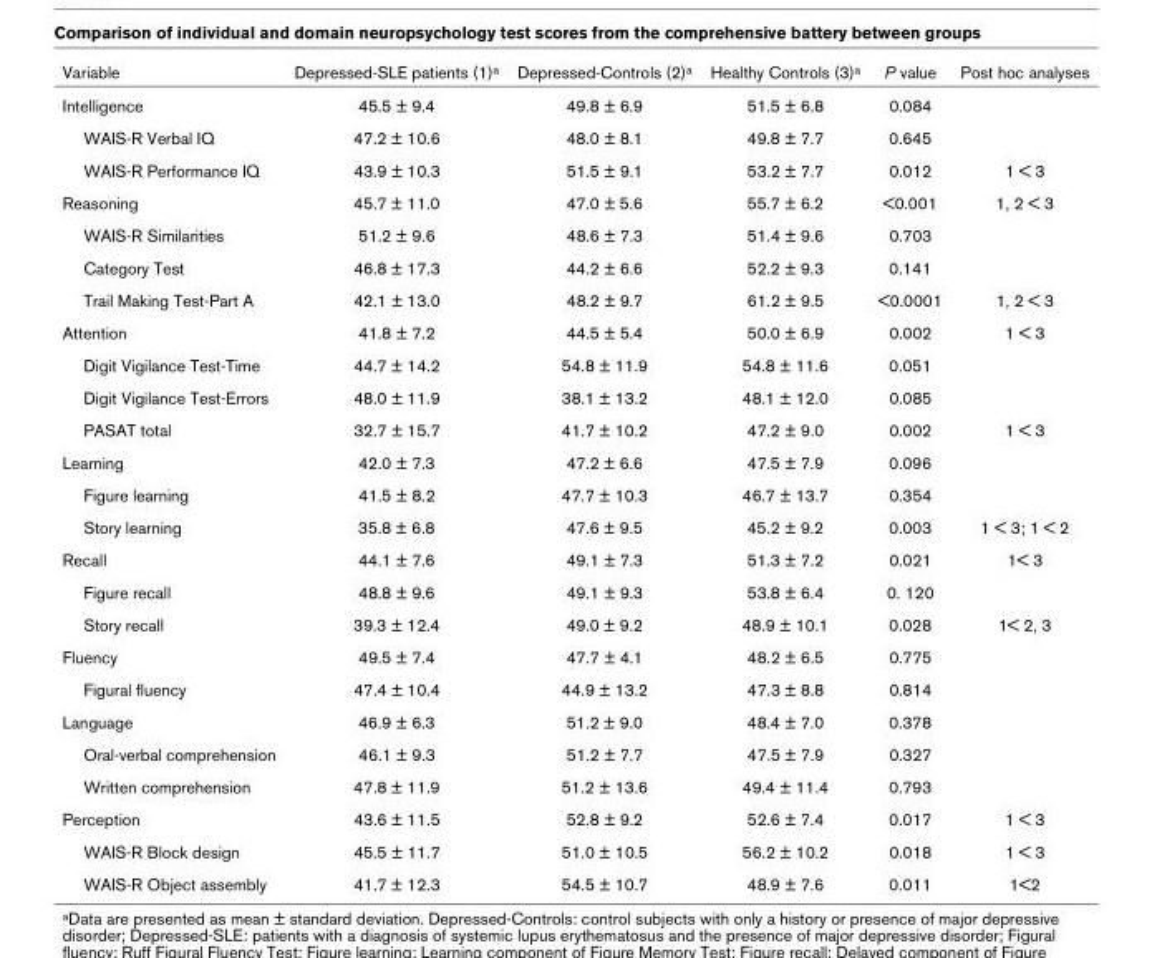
<table><thead><tr><td>Variable</td><td>Depressed-SLE patients (1)<sup>a</sup></td><td>Depressed-Controls (2)<sup>a</sup></td><td>Healthy Controls (3)<sup>a</sup></td><td>P value</td><td>Post hoc analyses</td></tr></thead><tbody><tr><td>Intelligence</td><td>45.5 ± 9.4</td><td>49.8 ± 6.9</td><td>51.5 ± 6.8</td><td>0.084</td><td></td></tr><tr><td>WAIS-R Verbal IQ</td><td>47.2 ± 10.6</td><td>48.0 ± 8.1</td><td>49.8 ± 7.7</td><td>0.645</td><td></td></tr><tr><td>WAIS-R Performance IQ</td><td>43.9 ± 10.3</td><td>51.5 ± 9.1</td><td>53.2 ± 7.7</td><td>0.012</td><td>1 &lt; 3</td></tr><tr><td>Reasoning</td><td>45.7 ± 11.0</td><td>47.0 ± 5.6</td><td>55.7 ± 6.2</td><td>&lt;0.001</td><td>1, 2 &lt; 3</td></tr><tr><td>WAIS-R Similarities</td><td>51.2 ± 9.6</td><td>48.6 ± 7.3</td><td>51.4 ± 9.6</td><td>0.703</td><td></td></tr><tr><td>Category Test</td><td>46.8 ± 17.3</td><td>44.2 ± 6.6</td><td>52.2 ± 9.3</td><td>0.141</td><td></td></tr><tr><td>Trail Making Test-Part A</td><td>42.1 ± 13.0</td><td>48.2 ± 9.7</td><td>61.2 ± 9.5</td><td>&lt;0.0001</td><td>1, 2 &lt; 3</td></tr><tr><td>Attention</td><td>41.8 ± 7.2</td><td>44.5 ± 5.4</td><td>50.0 ± 6.9</td><td>0.002</td><td>1 &lt; 3</td></tr><tr><td>Digit Vigilance Test-Time</td><td>44.7 ± 14.2</td><td>54.8 ± 11.9</td><td>54.8 ± 11.6</td><td>0.051</td><td></td></tr><tr><td>Digit Vigilance Test-Errors</td><td>48.0 ± 11.9</td><td>38.1 ± 13.2</td><td>48.1 ± 12.0</td><td>0.085</td><td></td></tr><tr><td>PASAT total</td><td>32.7 ± 15.7</td><td>41.7 ± 10.2</td><td>47.2 ± 9.0</td><td>0.002</td><td>1 &lt; 3</td></tr><tr><td>Learning</td><td>42.0 ± 7.3</td><td>47.2 ± 6.6</td><td>47.5 ± 7.9</td><td>0.096</td><td></td></tr><tr><td>Figure learning</td><td>41.5 ± 8.2</td><td>47.7 ± 10.3</td><td>46.7 ± 13.7</td><td>0.354</td><td></td></tr><tr><td>Story learning</td><td>35.8 ± 6.8</td><td>47.6 ± 9.5</td><td>45.2 ± 9.2</td><td>0.003</td><td>1 &lt; 3; 1 &lt; 2</td></tr><tr><td>Recall</td><td>44.1 ± 7.6</td><td>49.1 ± 7.3</td><td>51.3 ± 7.2</td><td>0.021</td><td>1&lt; 3</td></tr><tr><td>Figure recall</td><td>48.8 ± 9.6</td><td>49.1 ± 9.3</td><td>53.8 ± 6.4</td><td>0. 120</td><td></td></tr><tr><td>Story recall</td><td>39.3 ± 12.4</td><td>49.0 ± 9.2</td><td>48.9 ± 10.1</td><td>0.028</td><td>1&lt; 2, 3</td></tr><tr><td>Fluency</td><td>49.5 ± 7.4</td><td>47.7 ± 4.1</td><td>48.2 ± 6.5</td><td>0.775</td><td></td></tr><tr><td>Figural fluency</td><td>47.4 ± 10.4</td><td>44.9 ± 13.2</td><td>47.3 ± 8.8</td><td>0.814</td><td></td></tr><tr><td>Language</td><td>46.9 ± 6.3</td><td>51.2 ± 9.0</td><td>48.4 ± 7.0</td><td>0.378</td><td></td></tr><tr><td>Oral-verbal comprehension</td><td>46.1 ± 9.3</td><td>51.2 ± 7.7</td><td>47.5 ± 7.9</td><td>0.327</td><td></td></tr><tr><td>Written comprehension</td><td>47.8 ± 11.9</td><td>51.2 ± 13.6</td><td>49.4 ± 11.4</td><td>0.793</td><td></td></tr><tr><td>Perception</td><td>43.6 ± 11.5</td><td>52.8 ± 9.2</td><td>52.6 ± 7.4</td><td>0.017</td><td>1 &lt; 3</td></tr><tr><td>WAIS-R Block design</td><td>45.5 ± 11.7</td><td>51.0 ± 10.5</td><td>56.2 ± 10.2</td><td>0.018</td><td>1 &lt; 3</td></tr><tr><td>WAIS-R Object assembly</td><td>41.7 ± 12.3</td><td>54.5 ± 10.7</td><td>48.9 ± 7.6</td><td>0.011</td><td>1&lt;2</td></tr></tbody></table>